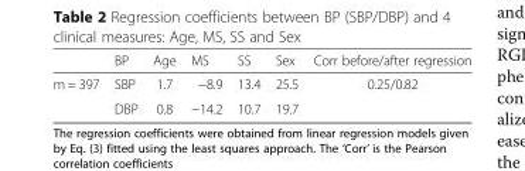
<table><thead><tr><td></td><td>BP</td><td>Age</td><td>MS</td><td>SS</td><td>Sex</td><td>Corr before/after regression</td></tr></thead><tbody><tr><td rowspan="2">m = 397</td><td>SBP</td><td>1.7</td><td>−8.9</td><td>13.4</td><td>25.5</td><td rowspan="2">0.25/0.82</td></tr><tr><td>DBP</td><td>0.8</td><td>−14.2</td><td>10.7</td><td>19.7</td></tr></tbody></table>